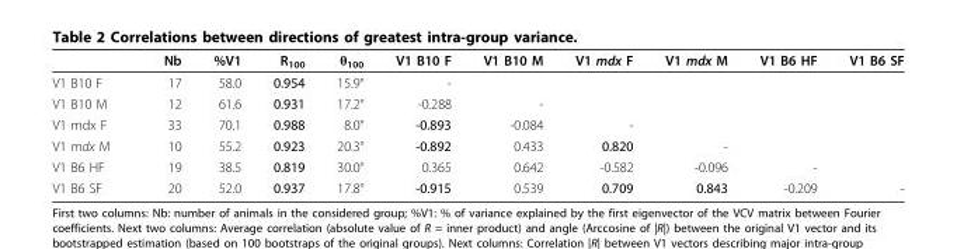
<table><thead><tr><td></td><td>Nb</td><td>%V1</td><td>R<sub>100</sub></td><td>θ<sub>100</sub></td><td>V1 B10 F</td><td>V1 B10 M</td><td>V1 mdx F</td><td>V1 mdx M</td><td>V1 B6 HF</td><td>V1 B6 SF</td></tr></thead><tbody><tr><td>V1 B10 F</td><td>17</td><td>58.0</td><td>0.954</td><td>15.9°</td><td>-</td><td></td><td></td><td></td><td></td><td></td></tr><tr><td>V1 B10 M</td><td>12</td><td>61.6</td><td>0.931</td><td>17.2°</td><td>-0.288</td><td>-</td><td></td><td></td><td></td><td></td></tr><tr><td>V1 mdx F</td><td>33</td><td>70.1</td><td>0.988</td><td>8.0°</td><td>-0.893</td><td>-0.084</td><td>-</td><td></td><td></td><td></td></tr><tr><td>V1 mdx M</td><td>10</td><td>55.2</td><td>0.923</td><td>20.3°</td><td>-0.892</td><td>0.433</td><td>0.820</td><td>-</td><td></td><td></td></tr><tr><td>V1 B6 HF</td><td>19</td><td>38.5</td><td>0.819</td><td>30.0°</td><td>0.365</td><td>0.642</td><td>-0.582</td><td>-0.096</td><td>-</td><td></td></tr><tr><td>V1 B6 SF</td><td>20</td><td>52.0</td><td>0.937</td><td>17.8°</td><td>-0.915</td><td>0.539</td><td>0.709</td><td>0.843</td><td>-0.209</td><td>-</td></tr></tbody></table>